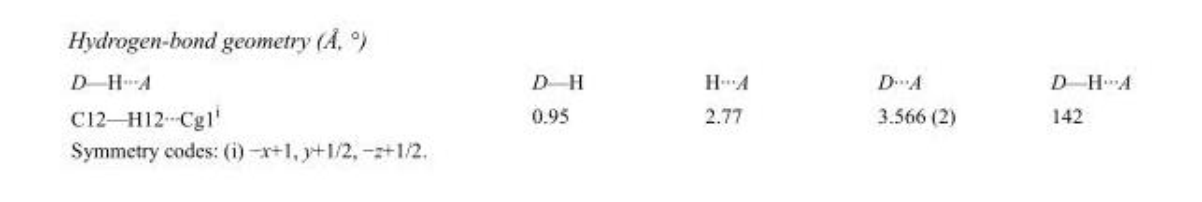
<table><tbody><tr><td>D—H···A</td><td>D—H</td><td>H···A</td><td>D···A</td><td>D—H···A</td></tr><tr><td>C12—H12···Cg1<sup>i</sup></td><td>0.95</td><td>2.77</td><td>3.566 (2)</td><td>142</td></tr></tbody></table>